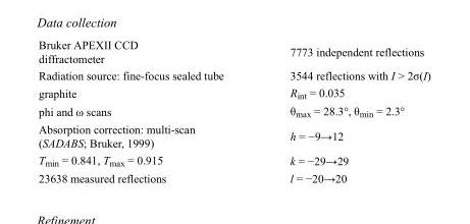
<table><tbody><tr><td>Bruker APEXII CCD diffractometer</td><td>7773 independent reflections</td></tr><tr><td>Radiation source: fine-focus sealed tube</td><td>3544 reflections with I &gt; 2σ(I)</td></tr><tr><td>graphite</td><td>R<sub>int</sub> = 0.035</td></tr><tr><td>phi and ω scans</td><td>θ<sub>max</sub> = 28.3°, θ<sub>min</sub> = 2.3°</td></tr><tr><td>Absorption correction: multi-scan (SADABS; Bruker, 1999)</td><td>h = −9→12</td></tr><tr><td>T<sub>min</sub> = 0.841, T<sub>max</sub> = 0.915</td><td>k = −29→29</td></tr><tr><td>23638 measured reflections</td><td>l = −20→20</td></tr></tbody></table>